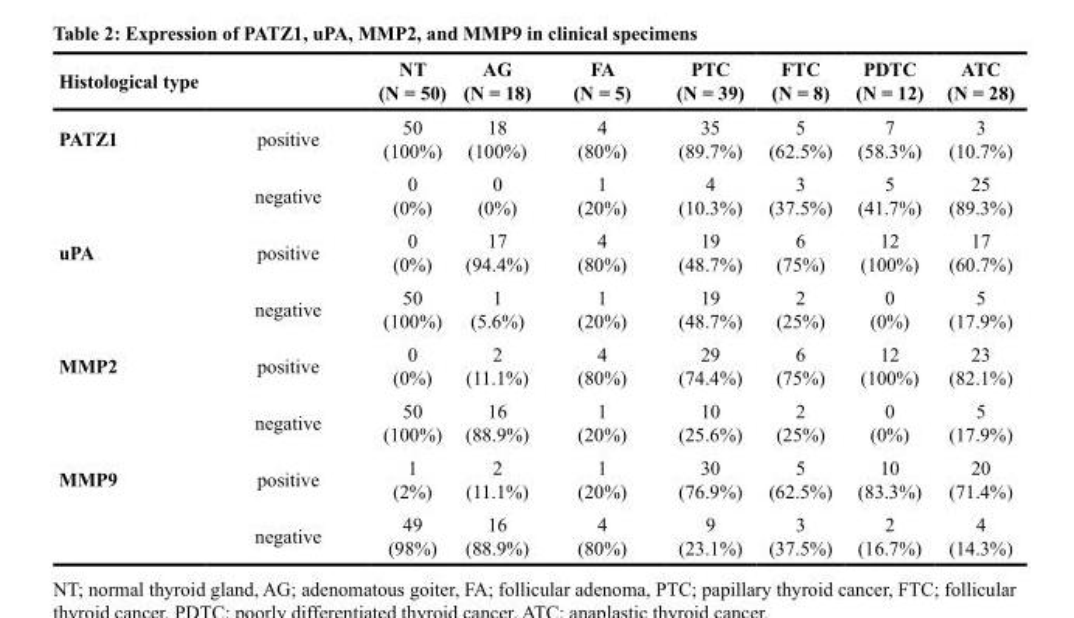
<table><thead><tr><td>Histological type</td><td></td><td>NT (N = 50)</td><td>AG (N = 18)</td><td>FA (N = 5)</td><td>PTC (N = 39)</td><td>FTC (N = 8)</td><td>PDTC (N = 12)</td><td>ATC (N = 28)</td></tr></thead><tbody><tr><td rowspan="2">PATZ1</td><td>positive</td><td>50 (100%)</td><td>18 (100%)</td><td>4 (80%)</td><td>35 (89.7%)</td><td>5 (62.5%)</td><td>7 (58.3%)</td><td>3 (10.7%)</td></tr><tr><td>negative</td><td>0 (0%)</td><td>0 (0%)</td><td>1 (20%)</td><td>4 (10.3%)</td><td>3 (37.5%)</td><td>5 (41.7%)</td><td>25 (89.3%)</td></tr><tr><td rowspan="2">uPA</td><td>positive</td><td>0 (0%)</td><td>17 (94.4%)</td><td>4 (80%)</td><td>19 (48.7%)</td><td>6 (75%)</td><td>12 (100%)</td><td>17 (60.7%)</td></tr><tr><td>negative</td><td>50 (100%)</td><td>1 (5.6%)</td><td>1 (20%)</td><td>19 (48.7%)</td><td>2 (25%)</td><td>0 (0%)</td><td>5 (17.9%)</td></tr><tr><td rowspan="2">MMP2</td><td>positive</td><td>0 (0%)</td><td>2 (11.1%)</td><td>4 (80%)</td><td>29 (74.4%)</td><td>6 (75%)</td><td>12 (100%)</td><td>23 (82.1%)</td></tr><tr><td>negative</td><td>50 (100%)</td><td>16 (88.9%)</td><td>1 (20%)</td><td>10 (25.6%)</td><td>2 (25%)</td><td>0 (0%)</td><td>5 (17.9%)</td></tr><tr><td rowspan="2">MMP9</td><td>positive</td><td>1 (2%)</td><td>2 (11.1%)</td><td>1 (20%)</td><td>30 (76.9%)</td><td>5 (62.5%)</td><td>10 (83.3%)</td><td>20 (71.4%)</td></tr><tr><td>negative</td><td>49 (98%)</td><td>16 (88.9%)</td><td>4 (80%)</td><td>9 (23.1%)</td><td>3 (37.5%)</td><td>2 (16.7%)</td><td>4 (14.3%)</td></tr></tbody></table>